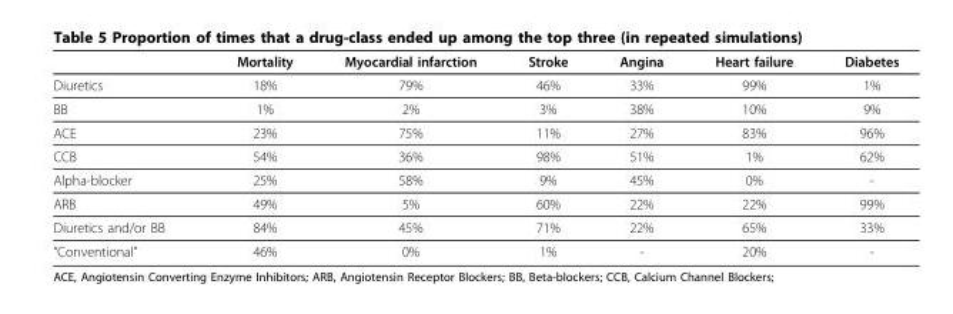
<table><thead><tr><td></td><td>Mortality</td><td>Myocardial infarction</td><td>Stroke</td><td>Angina</td><td>Heart failure</td><td>Diabetes</td></tr></thead><tbody><tr><td>Diuretics</td><td>18%</td><td>79%</td><td>46%</td><td>33%</td><td>99%</td><td>1%</td></tr><tr><td>BB</td><td>1%</td><td>2%</td><td>3%</td><td>38%</td><td>10%</td><td>9%</td></tr><tr><td>ACE</td><td>23%</td><td>75%</td><td>11%</td><td>27%</td><td>83%</td><td>96%</td></tr><tr><td>CCB</td><td>54%</td><td>36%</td><td>98%</td><td>51%</td><td>1%</td><td>62%</td></tr><tr><td>Alpha-blocker</td><td>25%</td><td>58%</td><td>9%</td><td>45%</td><td>0%</td><td>-</td></tr><tr><td>ARB</td><td>49%</td><td>5%</td><td>60%</td><td>22%</td><td>22%</td><td>99%</td></tr><tr><td>Diuretics and/or BB</td><td>84%</td><td>45%</td><td>71%</td><td>22%</td><td>65%</td><td>33%</td></tr><tr><td>“Conventional”</td><td>46%</td><td>0%</td><td>1%</td><td>-</td><td>20%</td><td>-</td></tr></tbody></table>